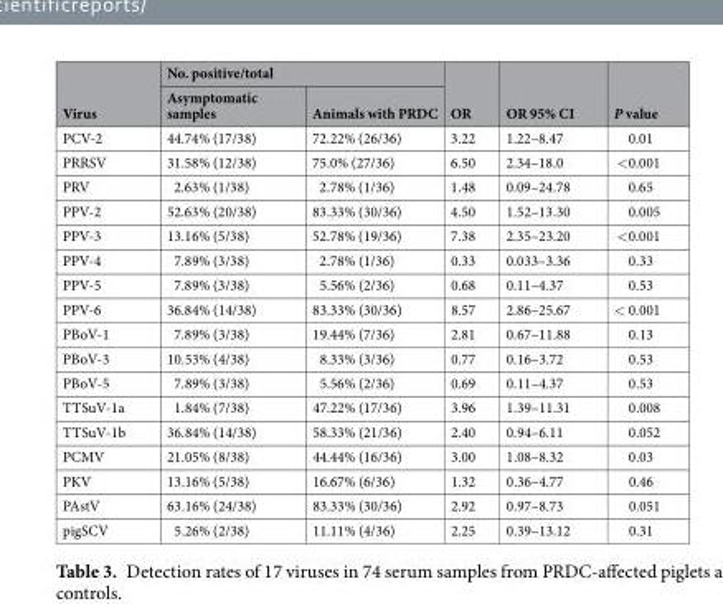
<table><thead><tr><td rowspan="2">Virus</td><td colspan="2">No. positive/total</td><td rowspan="2">OR</td><td rowspan="2">OR 95% CI</td><td rowspan="2">P value</td></tr><tr><td>Asymptomatic samples</td><td>Animals with PRDC</td></tr></thead><tbody><tr><td>PCV-2</td><td>44.74% (17/38)</td><td>72.22% (26/36)</td><td>3.22</td><td>1.22–8.47</td><td>0.01</td></tr><tr><td>PRRSV</td><td>31.58% (12/38)</td><td>75.0% (27/36)</td><td>6.50</td><td>2.34–18.0</td><td>&lt;0.001</td></tr><tr><td>PRV</td><td>2.63% (1/38)</td><td>2.78% (1/36)</td><td>1.48</td><td>0.09–24.78</td><td>0.65</td></tr><tr><td>PPV-2</td><td>52.63% (20/38)</td><td>83.33% (30/36)</td><td>4.50</td><td>1.52–13.30</td><td>0.005</td></tr><tr><td>PPV-3</td><td>13.16% (5/38)</td><td>52.78% (19/36)</td><td>7.38</td><td>2.35–23.20</td><td>&lt;0.001</td></tr><tr><td>PPV-4</td><td>7.89% (3/38)</td><td>2.78% (1/36)</td><td>0.33</td><td>0.033–3.36</td><td>0.33</td></tr><tr><td>PPV-5</td><td>7.89% (3/38)</td><td>5.56% (2/36)</td><td>0.68</td><td>0.11–4.37</td><td>0.53</td></tr><tr><td>PPV-6</td><td>36.84% (14/38)</td><td>83.33% (30/36)</td><td>8.57</td><td>2.86–25.67</td><td>&lt; 0.001</td></tr><tr><td>PBoV-1</td><td>7.89% (3/38)</td><td>19.44% (7/36)</td><td>2.81</td><td>0.67–11.88</td><td>0.13</td></tr><tr><td>PBoV-3</td><td>10.53% (4/38)</td><td>8.33% (3/36)</td><td>0.77</td><td>0.16–3.72</td><td>0.53</td></tr><tr><td>PBoV-5</td><td>7.89% (3/38)</td><td>5.56% (2/36)</td><td>0.69</td><td>0.11–4.37</td><td>0.53</td></tr><tr><td>TTSuV-1a</td><td>1.84% (7/38)</td><td>47.22% (17/36)</td><td>3.96</td><td>1.39–11.31</td><td>0.008</td></tr><tr><td>TTSuV-1b</td><td>36.84% (14/38)</td><td>58.33% (21/36)</td><td>2.40</td><td>0.94–6.11</td><td>0.052</td></tr><tr><td>PCMV</td><td>21.05% (8/38)</td><td>44.44% (16/36)</td><td>3.00</td><td>1.08–8.32</td><td>0.03</td></tr><tr><td>PKV</td><td>13.16% (5/38)</td><td>16.67% (6/36)</td><td>1.32</td><td>0.36–4.77</td><td>0.46</td></tr><tr><td>PAstV</td><td>63.16% (24/38)</td><td>83.33% (30/36)</td><td>2.92</td><td>0.97–8.73</td><td>0.051</td></tr><tr><td>pigSCV</td><td>5.26% (2/38)</td><td>11.11% (4/36)</td><td>2.25</td><td>0.39–13.12</td><td>0.31</td></tr></tbody></table>